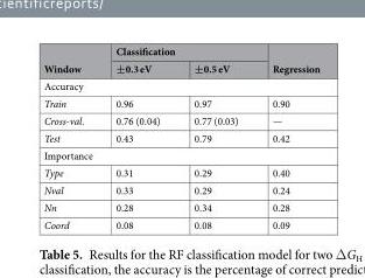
<table><thead><tr><td rowspan="2">Window</td><td colspan="2">Classification</td><td rowspan="2">Regression</td></tr><tr><td>±0.3 eV</td><td>±0.5 eV</td></tr></thead><tbody><tr><td colspan="4">Accuracy</td></tr><tr><td>Train</td><td>0.96</td><td>0.97</td><td>0.90</td></tr><tr><td>Cross-val.</td><td>0.76 (0.04)</td><td>0.77 (0.03)</td><td>—</td></tr><tr><td>Test</td><td>0.43</td><td>0.79</td><td>0.42</td></tr><tr><td colspan="4">Importance</td></tr><tr><td>Type</td><td>0.31</td><td>0.29</td><td>0.40</td></tr><tr><td>Nval</td><td>0.33</td><td>0.29</td><td>0.24</td></tr><tr><td>Nn</td><td>0.28</td><td>0.34</td><td>0.28</td></tr><tr><td>Coord</td><td>0.08</td><td>0.08</td><td>0.09</td></tr></tbody></table>